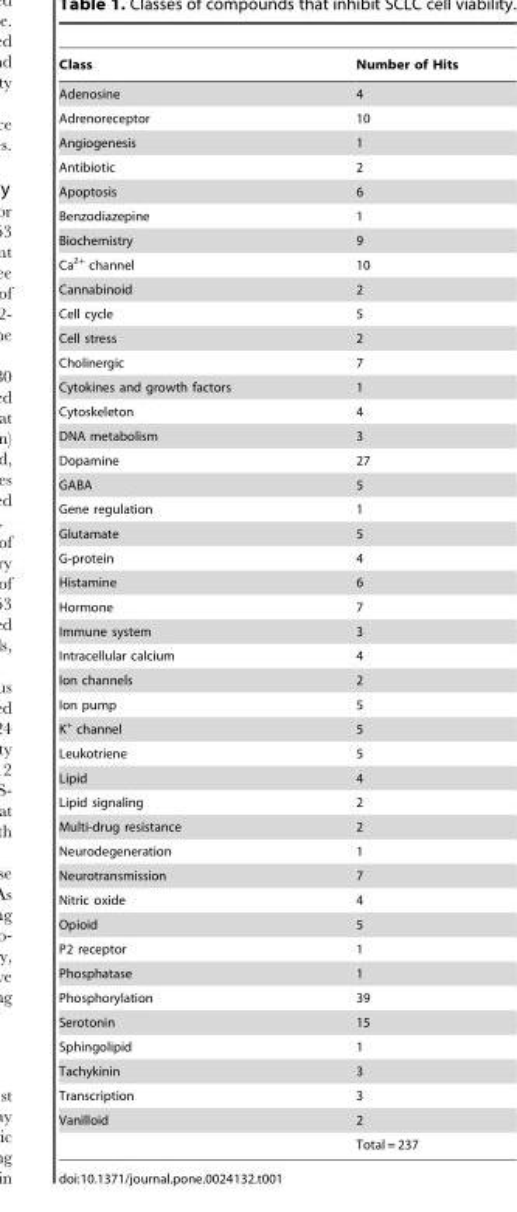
<table><thead><tr><td>Class</td><td>Number of Hits</td></tr></thead><tbody><tr><td>Adenosine</td><td>4</td></tr><tr><td>Adrenoreceptor</td><td>10</td></tr><tr><td>Angiogenesis</td><td>1</td></tr><tr><td>Antibiotic</td><td>2</td></tr><tr><td>Apoptosis</td><td>6</td></tr><tr><td>Benzodiazepine</td><td>1</td></tr><tr><td>Biochemistry</td><td>9</td></tr><tr><td>Ca<sup>2+</sup> channel</td><td>10</td></tr><tr><td>Cannabinoid</td><td>2</td></tr><tr><td>Cell cycle</td><td>5</td></tr><tr><td>Cell stress</td><td>2</td></tr><tr><td>Cholinergic</td><td>7</td></tr><tr><td>Cytokines and growth factors</td><td>1</td></tr><tr><td>Cytoskeleton</td><td>4</td></tr><tr><td>DNA metabolism</td><td>3</td></tr><tr><td>Dopamine</td><td>27</td></tr><tr><td>GABA</td><td>5</td></tr><tr><td>Gene regulation</td><td>1</td></tr><tr><td>Glutamate</td><td>5</td></tr><tr><td>G-protein</td><td>4</td></tr><tr><td>Histamine</td><td>6</td></tr><tr><td>Hormone</td><td>7</td></tr><tr><td>Immune system</td><td>3</td></tr><tr><td>Intracellular calcium</td><td>4</td></tr><tr><td>Ion channels</td><td>2</td></tr><tr><td>Ion pump</td><td>5</td></tr><tr><td>K<sup>+</sup> channel</td><td>5</td></tr><tr><td>Leukotriene</td><td>5</td></tr><tr><td>Lipid</td><td>4</td></tr><tr><td>Lipid signaling</td><td>2</td></tr><tr><td>Multi-drug resistance</td><td>2</td></tr><tr><td>Neurodegeneration</td><td>1</td></tr><tr><td>Neurotransmission</td><td>7</td></tr><tr><td>Nitric oxide</td><td>4</td></tr><tr><td>Opioid</td><td>5</td></tr><tr><td>P2 receptor</td><td>1</td></tr><tr><td>Phosphatase</td><td>1</td></tr><tr><td>Phosphorylation</td><td>39</td></tr><tr><td>Serotonin</td><td>15</td></tr><tr><td>Sphingolipid</td><td>1</td></tr><tr><td>Tachykinin</td><td>3</td></tr><tr><td>Transcription</td><td>3</td></tr><tr><td rowspan="2">Vanilloid</td><td>2</td></tr><tr><td>Total = 237</td></tr></tbody></table>